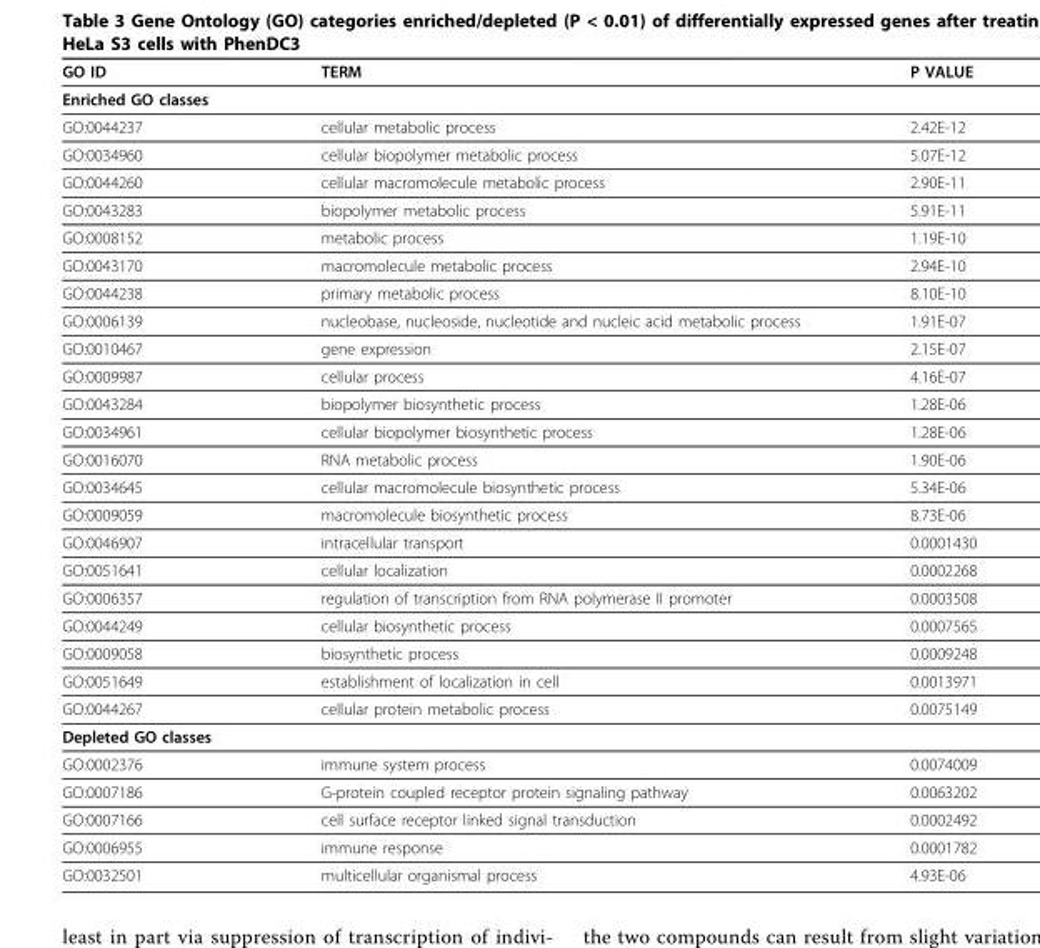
<table><thead><tr><td>GO ID</td><td>TERM</td><td>P VALUE</td></tr></thead><tbody><tr><td colspan="3">Enriched GO classes</td></tr><tr><td>GO:0044237</td><td>cellular metabolic process</td><td>2.42E-12</td></tr><tr><td>GO:0034960</td><td>cellular biopolymer metabolic process</td><td>5.07E-12</td></tr><tr><td>GO:0044260</td><td>cellular macromolecule metabolic process</td><td>2.90E-11</td></tr><tr><td>GO:0043283</td><td>biopolymer metabolic process</td><td>5.91E-11</td></tr><tr><td>GO:0008152</td><td>metabolic process</td><td>1.19E-10</td></tr><tr><td>GO:0043170</td><td>macromolecule metabolic process</td><td>2.94E-10</td></tr><tr><td>GO:0044238</td><td>primary metabolic process</td><td>8.10E-10</td></tr><tr><td>GO:0006139</td><td>nucleobase, nucleoside, nucleotide and nucleic acid metabolic process</td><td>1.91E-07</td></tr><tr><td>GO:0010467</td><td>gene expression</td><td>2.15E-07</td></tr><tr><td>GO:0009987</td><td>cellular process</td><td>4.16E-07</td></tr><tr><td>GO:0043284</td><td>biopolymer biosynthetic process</td><td>1.28E-06</td></tr><tr><td>GO:0034961</td><td>cellular biopolymer biosynthetic process</td><td>1.28E-06</td></tr><tr><td>GO:0016070</td><td>RNA metabolic process</td><td>1.90E-06</td></tr><tr><td>GO:0034645</td><td>cellular macromolecule biosynthetic process</td><td>5.34E-06</td></tr><tr><td>GO:0009059</td><td>macromolecule biosynthetic process</td><td>8.73E-06</td></tr><tr><td>GO:0046907</td><td>intracellular transport</td><td>0.0001430</td></tr><tr><td>GO:0051641</td><td>cellular localization</td><td>0.0002268</td></tr><tr><td>GO:0006357</td><td>regulation of transcription from RNA polymerase II promoter</td><td>0.0003508</td></tr><tr><td>GO:0044249</td><td>cellular biosynthetic process</td><td>0.0007565</td></tr><tr><td>GO:0009058</td><td>biosynthetic process</td><td>0.0009248</td></tr><tr><td>GO:0051649</td><td>establishment of localization in cell</td><td>0.0013971</td></tr><tr><td>GO:0044267</td><td>cellular protein metabolic process</td><td>0.0075149</td></tr><tr><td colspan="3">Depleted GO classes</td></tr><tr><td>GO:0002376</td><td>immune system process</td><td>0.0074009</td></tr><tr><td>GO:0007186</td><td>G-protein coupled receptor protein signaling pathway</td><td>0.0063202</td></tr><tr><td>GO:0007166</td><td>cell surface receptor linked signal transduction</td><td>0.0002492</td></tr><tr><td>GO:0006955</td><td>immune response</td><td>0.0001782</td></tr><tr><td>GO:0032501</td><td>multicellular organismal process</td><td>4.93E-06</td></tr></tbody></table>